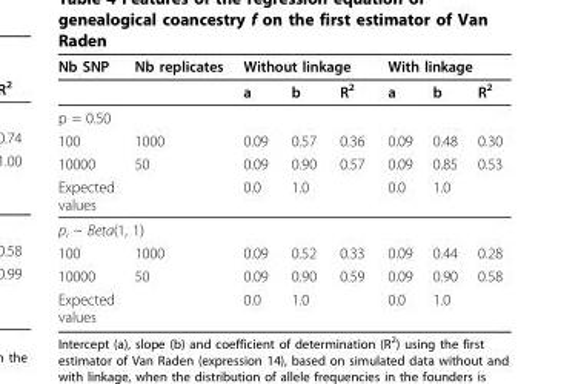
<table><thead><tr><td rowspan="2">Nb SNP</td><td rowspan="2">Nb replicates</td><td colspan="3">Without linkage</td><td colspan="3">With linkage</td></tr><tr><td>a</td><td>b</td><td>R2</td><td>a</td><td>b</td><td>R2</td></tr></thead><tbody><tr><td colspan="8">p = 0.50</td></tr><tr><td>100</td><td>1000</td><td>0.09</td><td>0.57</td><td>0.36</td><td>0.09</td><td>0.48</td><td>0.30</td></tr><tr><td>10000</td><td>50</td><td>0.09</td><td>0.90</td><td>0.57</td><td>0.09</td><td>0.85</td><td>0.53</td></tr><tr><td>Expected values</td><td></td><td>0.0</td><td>1.0</td><td></td><td>0.0</td><td>1.0</td><td></td></tr><tr><td colspan="8">pi ~ Beta(1, 1)</td></tr><tr><td>100</td><td>1000</td><td>0.09</td><td>0.52</td><td>0.33</td><td>0.09</td><td>0.44</td><td>0.28</td></tr><tr><td>10000</td><td>50</td><td>0.09</td><td>0.90</td><td>0.59</td><td>0.09</td><td>0.90</td><td>0.58</td></tr><tr><td>Expected values</td><td></td><td>0.0</td><td>1.0</td><td></td><td>0.0</td><td>1.0</td><td></td></tr></tbody></table>